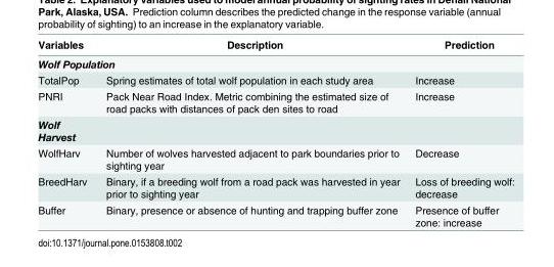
<table><thead><tr><td>Variables</td><td>Description</td><td>Prediction</td></tr></thead><tbody><tr><td colspan="3">Wolf Population</td></tr><tr><td>TotalPop</td><td>Spring estimates of total wolf population in each study area</td><td>Increase</td></tr><tr><td>PNRI</td><td>Pack Near Road Index. Metric combining the estimated size of road packs with distances of pack den sites to road</td><td>Increase</td></tr><tr><td colspan="3">Wolf Harvest</td></tr><tr><td>WolfHarv</td><td>Number of wolves harvested adjacent to park boundaries prior to sighting year</td><td>Decrease</td></tr><tr><td>BreedHarv</td><td>Binary, if a breeding wolf from a road pack was harvested in year prior to sighting year</td><td>Loss of breeding wolf: decrease</td></tr><tr><td>Buffer</td><td>Binary, presence or absence of hunting and trapping buffer zone</td><td>Presence of buffer zone: increase</td></tr></tbody></table>